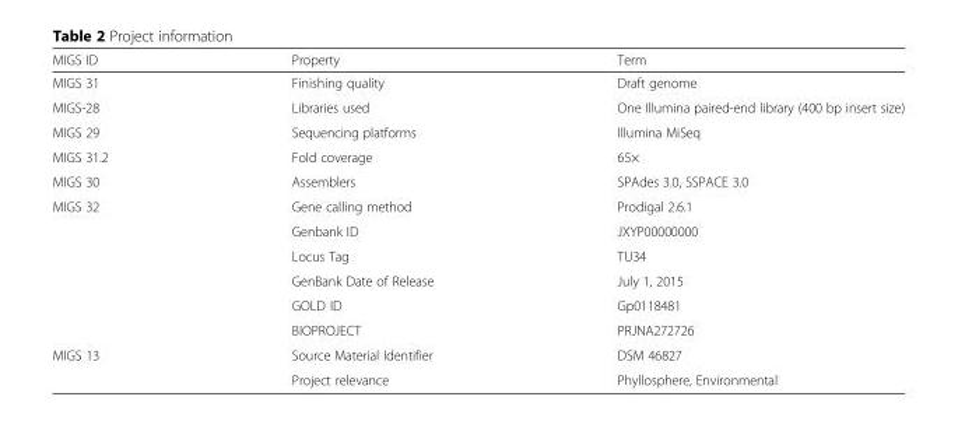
<table><thead><tr><td>MIGS ID</td><td>Property</td><td>Term</td></tr></thead><tbody><tr><td>MIGS 31</td><td>Finishing quality</td><td>Draft genome</td></tr><tr><td>MIGS-28</td><td>Libraries used</td><td>One Illumina paired-end library (400 bp insert size)</td></tr><tr><td>MIGS 29</td><td>Sequencing platforms</td><td>Illumina MiSeq</td></tr><tr><td>MIGS 31.2</td><td>Fold coverage</td><td>65×</td></tr><tr><td>MIGS 30</td><td>Assemblers</td><td>SPAdes 3.0, SSPACE 3.0</td></tr><tr><td rowspan="6">MIGS 32</td><td>Gene calling method</td><td>Prodigal 2.6.1</td></tr><tr><td>Genbank ID</td><td>JXYP00000000</td></tr><tr><td>Locus Tag</td><td>TU34</td></tr><tr><td>GenBank Date of Release</td><td>July 1, 2015</td></tr><tr><td>GOLD ID</td><td>Gp0118481</td></tr><tr><td>BIOPROJECT</td><td>PRJNA272726</td></tr><tr><td rowspan="2">MIGS 13</td><td>Source Material Identifier</td><td>DSM 46827</td></tr><tr><td>Project relevance</td><td>Phyllosphere, Environmental</td></tr></tbody></table>